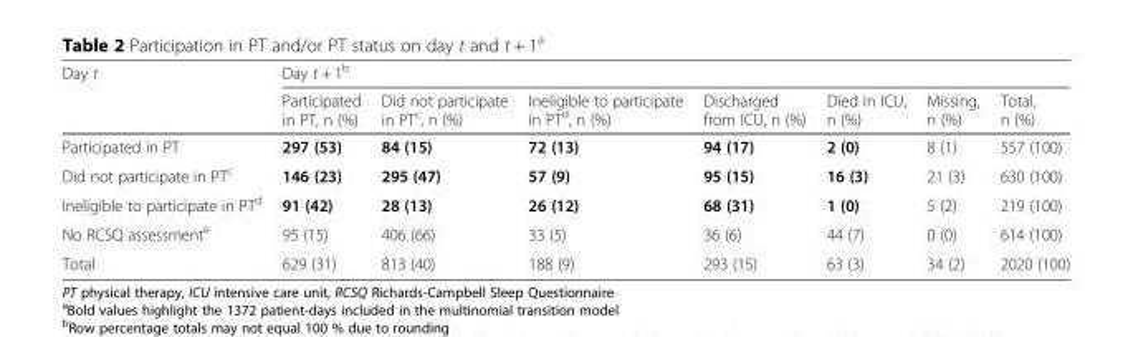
<table><thead><tr><td rowspan="2">Day t</td><td colspan="7">Day t + 1<sup>b</sup></td></tr><tr><td>Participated in PT, n (%)</td><td>Did not participate in PT<sup>c</sup>, n (%)</td><td>Ineligible to participate in PT<sup>d</sup>, n (%)</td><td>Discharged from ICU, n (%)</td><td>Died in ICU, n (%)</td><td>Missing, n (%)</td><td>Total, n (%)</td></tr></thead><tbody><tr><td>Participated in PT</td><td>297 (53)</td><td>84 (15)</td><td>72 (13)</td><td>94 (17)</td><td>2 (0)</td><td>8 (1)</td><td>557 (100)</td></tr><tr><td>Did not participate in PT<sup>c</sup></td><td>146 (23)</td><td>295 (47)</td><td>57 (9)</td><td>95 (15)</td><td>16 (3)</td><td>21 (3)</td><td>630 (100)</td></tr><tr><td>Ineligible to participate in PT<sup>d</sup></td><td>91 (42)</td><td>28 (13)</td><td>26 (12)</td><td>68 (31)</td><td>1 (0)</td><td>5 (2)</td><td>219 (100)</td></tr><tr><td>No RCSQ assessment<sup>e</sup></td><td>95 (15)</td><td>406 (66)</td><td>33 (5)</td><td>36 (6)</td><td>44 (7)</td><td>0 (0)</td><td>614 (100)</td></tr><tr><td>Total</td><td>629 (31)</td><td>813 (40)</td><td>188 (9)</td><td>293 (15)</td><td>63 (3)</td><td>34 (2)</td><td>2020 (100)</td></tr></tbody></table>